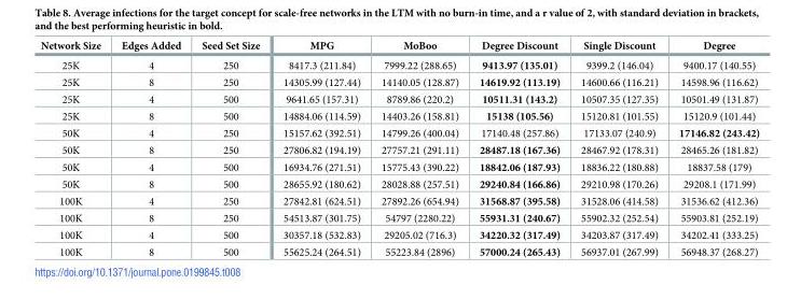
<table><thead><tr><td>Network Size</td><td>Edges Added</td><td>Seed Set Size</td><td>MPG</td><td>MoBoo</td><td>Degree Discount</td><td>Single Discount</td><td>Degree</td></tr></thead><tbody><tr><td>25K</td><td>4</td><td>250</td><td>8417.3 (211.84)</td><td>7999.22 (288.65)</td><td>9413.97 (135.01)</td><td>9399.2 (146.04)</td><td>9400.17 (140.55)</td></tr><tr><td>25K</td><td>8</td><td>250</td><td>14305.99 (127.44)</td><td>14140.05 (128.87)</td><td>14619.92 (113.19)</td><td>14600.66 (116.21)</td><td>14598.96 (116.62)</td></tr><tr><td>25K</td><td>4</td><td>500</td><td>9641.65 (157.31)</td><td>8789.86 (220.2)</td><td>10511.31 (143.2)</td><td>10507.35 (127.35)</td><td>10501.49 (131.87)</td></tr><tr><td>25K</td><td>8</td><td>500</td><td>14884.06 (114.59)</td><td>14403.26 (158.81)</td><td>15138 (105.56)</td><td>15120.81 (101.55)</td><td>15120.9 (101.44)</td></tr><tr><td>50K</td><td>4</td><td>250</td><td>15157.62 (392.51)</td><td>14799.26 (400.04)</td><td>17140.48 (257.86)</td><td>17133.07 (240.9)</td><td>17146.82 (243.42)</td></tr><tr><td>50K</td><td>8</td><td>250</td><td>27806.82 (194.19)</td><td>27757.21 (291.11)</td><td>28487.18 (167.36)</td><td>28467.92 (178.31)</td><td>28465.26 (181.82)</td></tr><tr><td>50K</td><td>4</td><td>500</td><td>16934.76 (271.51)</td><td>15775.43 (390.22)</td><td>18842.06 (187.93)</td><td>18836.22 (180.88)</td><td>18837.58 (179)</td></tr><tr><td>50K</td><td>8</td><td>500</td><td>28655.92 (180.62)</td><td>28028.88 (257.51)</td><td>29240.84 (166.86)</td><td>29210.98 (170.26)</td><td>29208.1 (171.99)</td></tr><tr><td>100K</td><td>4</td><td>250</td><td>27842.81 (624.51)</td><td>27892.26 (654.94)</td><td>31568.87 (395.58)</td><td>31528.06 (414.58)</td><td>31536.62 (412.36)</td></tr><tr><td>100K</td><td>8</td><td>250</td><td>54513.87 (301.75)</td><td>54797 (2280.22)</td><td>55931.31 (240.67)</td><td>55902.32 (252.54)</td><td>55903.81 (252.19)</td></tr><tr><td>100K</td><td>4</td><td>500</td><td>30357.18 (532.83)</td><td>29205.02 (716.3)</td><td>34220.32 (317.49)</td><td>34203.87 (317.49)</td><td>34202.41 (333.25)</td></tr><tr><td>100K</td><td>8</td><td>500</td><td>55625.24 (264.51)</td><td>55223.84 (2896)</td><td>57000.24 (265.43)</td><td>56937.01 (267.99)</td><td>56948.37 (268.27)</td></tr></tbody></table>